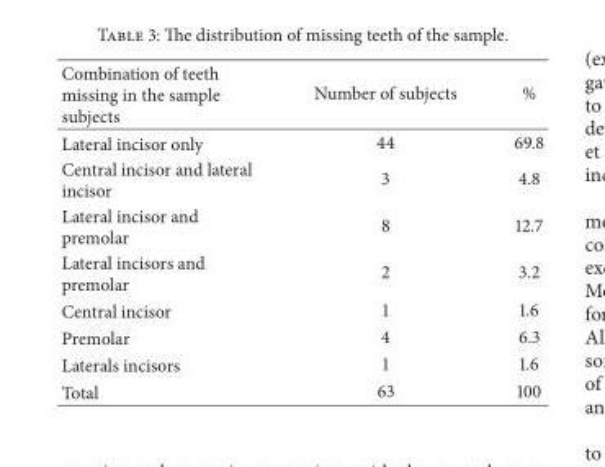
<table><thead><tr><td>Combination of teeth missing in the sample subjects</td><td>Number of subjects</td><td>%</td></tr></thead><tbody><tr><td>Lateral incisor only</td><td>44</td><td>69.8</td></tr><tr><td>Central incisor and lateral incisor</td><td>3</td><td>4.8</td></tr><tr><td>Lateral incisor and premolar</td><td>8</td><td>12.7</td></tr><tr><td>Lateral incisors and premolar</td><td>2</td><td>3.2</td></tr><tr><td>Central incisor</td><td>1</td><td>1.6</td></tr><tr><td>Premolar</td><td>4</td><td>6.3</td></tr><tr><td>Laterals incisors</td><td>1</td><td>1.6</td></tr><tr><td>Total</td><td>63</td><td>100</td></tr></tbody></table>